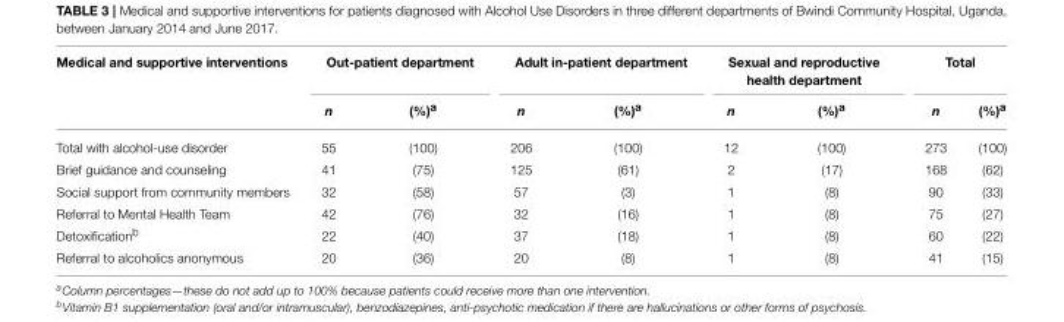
<table><thead><tr><td rowspan="2">Medical and supportive interventions</td><td colspan="2">Out-patient department</td><td colspan="2">Adult in-patient department</td><td colspan="2">Sexual and reproductive health department</td><td colspan="2">Total</td></tr><tr><td>n</td><td>(%)<sup>a</sup></td><td>n</td><td>(%)<sup>a</sup></td><td>n</td><td>(%)<sup>a</sup></td><td>n</td><td>(%)<sup>a</sup></td></tr></thead><tbody><tr><td>Total with alcohol-use disorder</td><td>55</td><td>(100)</td><td>206</td><td>(100)</td><td>12</td><td>(100)</td><td>273</td><td>(100)</td></tr><tr><td>Brief guidance and counseling</td><td>41</td><td>(75)</td><td>125</td><td>(61)</td><td>2</td><td>(17)</td><td>168</td><td>(62)</td></tr><tr><td>Social support from community members</td><td>32</td><td>(58)</td><td>57</td><td>(3)</td><td>1</td><td>(8)</td><td>90</td><td>(33)</td></tr><tr><td>Referral to Mental Health Team</td><td>42</td><td>(76)</td><td>32</td><td>(16)</td><td>1</td><td>(8)</td><td>75</td><td>(27)</td></tr><tr><td>Detoxification<sup>b</sup></td><td>22</td><td>(40)</td><td>37</td><td>(18)</td><td>1</td><td>(8)</td><td>60</td><td>(22)</td></tr><tr><td>Referral to alcoholics anonymous</td><td>20</td><td>(36)</td><td>20</td><td>(8)</td><td>1</td><td>(8)</td><td>41</td><td>(15)</td></tr></tbody></table>